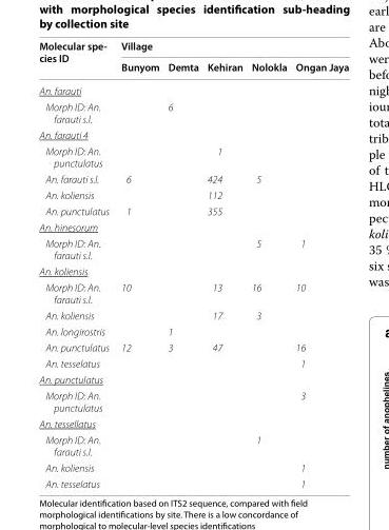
<table><thead><tr><td rowspan="2">Molecular spe- cies ID</td><td colspan="5">Village</td></tr><tr><td>Bunyom</td><td>Demta</td><td>Kehiran</td><td>Nolokla</td><td>Ongan Jaya</td></tr></thead><tbody><tr><td colspan="6">An. farauti</td></tr><tr><td>Morph ID: An. farauti s.l.</td><td></td><td>6</td><td></td><td></td><td></td></tr><tr><td colspan="6">An. farauti 4</td></tr><tr><td>Morph ID: An. punctulatus</td><td></td><td></td><td>1</td><td></td><td></td></tr><tr><td>An. farauti s.l.</td><td>6</td><td></td><td>424</td><td>5</td><td></td></tr><tr><td>An. koliensis</td><td></td><td></td><td>112</td><td></td><td></td></tr><tr><td>An. punctulatus</td><td>1</td><td></td><td>355</td><td></td><td></td></tr><tr><td colspan="6">An. hinesorum</td></tr><tr><td>Morph ID: An. farauti s.l.</td><td></td><td></td><td></td><td>5</td><td>1</td></tr><tr><td colspan="6">An. koliensis</td></tr><tr><td>Morph ID: An. farauti s.l.</td><td>10</td><td></td><td>13</td><td>16</td><td>10</td></tr><tr><td>An. koliensis</td><td></td><td></td><td>17</td><td>3</td><td></td></tr><tr><td>An. longirostris</td><td></td><td>1</td><td></td><td></td><td></td></tr><tr><td>An. punctulatus</td><td>12</td><td>3</td><td>47</td><td></td><td>16</td></tr><tr><td>An. tesselatus</td><td></td><td></td><td></td><td></td><td>1</td></tr><tr><td colspan="6">An. punctulatus</td></tr><tr><td>Morph ID: An. punctulatus</td><td></td><td></td><td></td><td></td><td>3</td></tr><tr><td colspan="6">An. tessellatus</td></tr><tr><td>Morph ID: An. farauti s.l.</td><td></td><td></td><td></td><td>1</td><td></td></tr><tr><td>An. koliensis</td><td></td><td></td><td></td><td></td><td>1</td></tr><tr><td>An. tesselatus</td><td></td><td></td><td></td><td></td><td>1</td></tr></tbody></table>